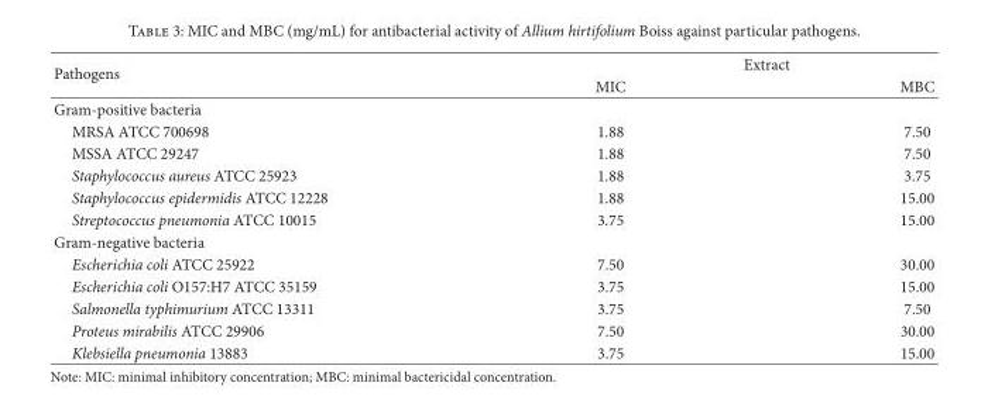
<table><thead><tr><td rowspan="2">Pathogens</td><td colspan="2">Extract</td></tr><tr><td>MIC</td><td>MBC</td></tr></thead><tbody><tr><td colspan="3">Gram-positive bacteria</td></tr><tr><td>MRSA ATCC 700698</td><td>1.88</td><td>7.50</td></tr><tr><td>MSSA ATCC 29247</td><td>1.88</td><td>7.50</td></tr><tr><td>Staphylococcus aureus ATCC 25923</td><td>1.88</td><td>3.75</td></tr><tr><td>Staphylococcus epidermidis ATCC 12228</td><td>1.88</td><td>15.00</td></tr><tr><td>Streptococcus pneumonia ATCC 10015</td><td>3.75</td><td>15.00</td></tr><tr><td colspan="3">Gram-negative bacteria</td></tr><tr><td>Escherichia coli ATCC 25922</td><td>7.50</td><td>30.00</td></tr><tr><td>Escherichia coli O157:H7 ATCC 35159</td><td>3.75</td><td>15.00</td></tr><tr><td>Salmonella typhimurium ATCC 13311</td><td>3.75</td><td>7.50</td></tr><tr><td>Proteus mirabilis ATCC 29906</td><td>7.50</td><td>30.00</td></tr><tr><td>Klebsiella pneumonia 13883</td><td>3.75</td><td>15.00</td></tr></tbody></table>